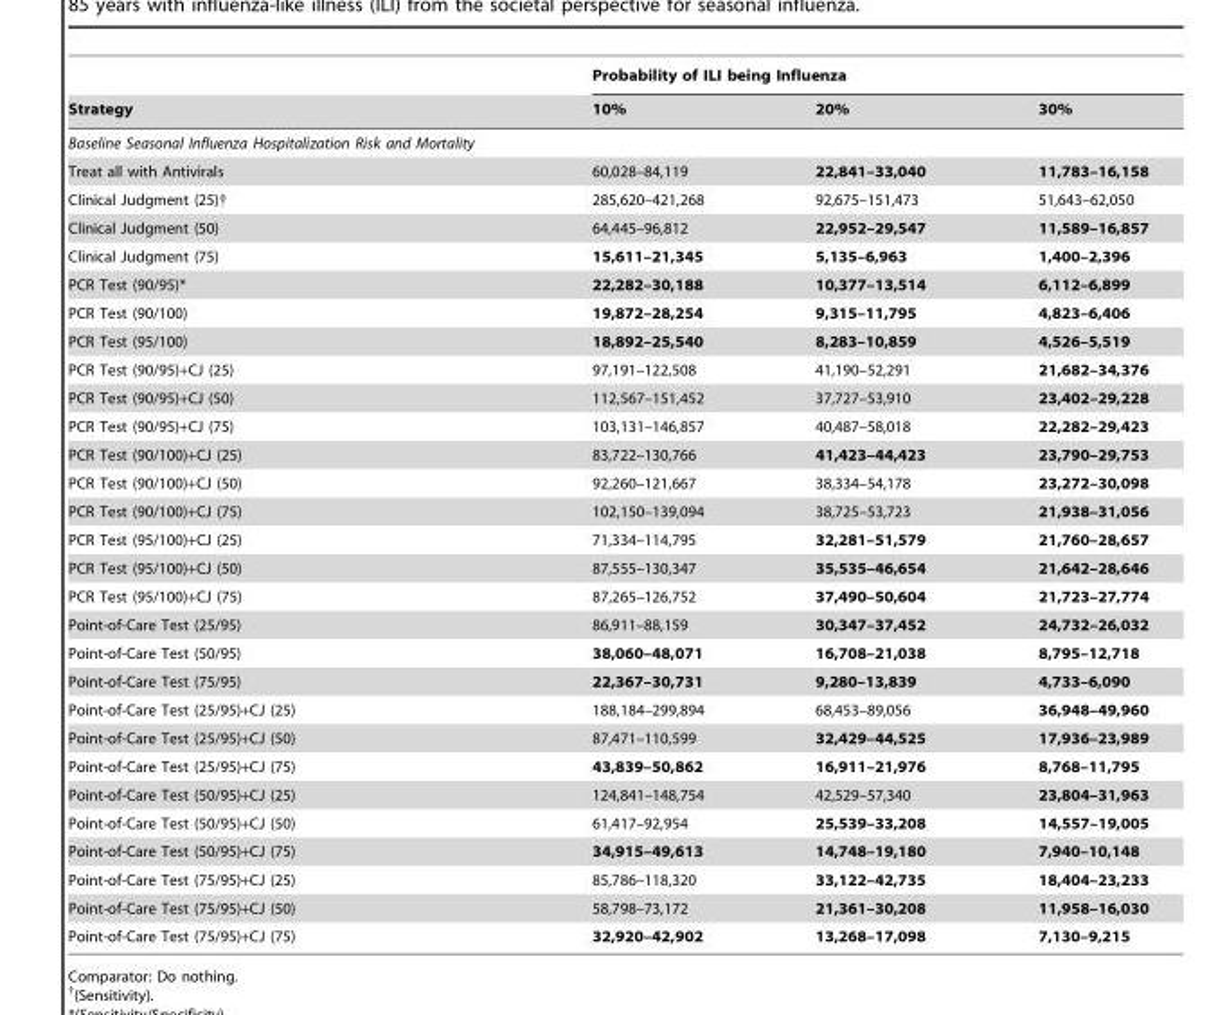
<table><thead><tr><td rowspan="2">Strategy</td><td colspan="3">Probability of ILI being Influenza</td></tr><tr><td>10%</td><td>20%</td><td>30%</td></tr></thead><tbody><tr><td colspan="4">Baseline Seasonal Influenza Hospitalization Risk and Mortality</td></tr><tr><td>Treat all with Antivirals</td><td>60,028–84,119</td><td>22,841–33,040</td><td>11,783–16,158</td></tr><tr><td>Clinical Judgment (25)†</td><td>285,620–421,268</td><td>92,675–151,473</td><td>51,643–62,050</td></tr><tr><td>Clinical Judgment (50)</td><td>64,445–96,812</td><td>22,952–29,547</td><td>11,589–16,857</td></tr><tr><td>Clinical Judgment (75)</td><td>15,611–21,345</td><td>5,135–6,963</td><td>1,400–2,396</td></tr><tr><td>PCR Test (90/95)*</td><td>22,282–30,188</td><td>10,377–13,514</td><td>6,112–6,899</td></tr><tr><td>PCR Test (90/100)</td><td>19,872–28,254</td><td>9,315–11,795</td><td>4,823–6,406</td></tr><tr><td>PCR Test (95/100)</td><td>18,892–25,540</td><td>8,283–10,859</td><td>4,526–5,519</td></tr><tr><td>PCR Test (90/95)+CJ (25)</td><td>97,191–122,508</td><td>41,190–52,291</td><td>21,682–34,376</td></tr><tr><td>PCR Test (90/95)+CJ (50)</td><td>112,567–151,452</td><td>37,727–53,910</td><td>23,402–29,228</td></tr><tr><td>PCR Test (90/95)+CJ (75)</td><td>103,131–146,857</td><td>40,487–58,018</td><td>22,282–29,423</td></tr><tr><td>PCR Test (90/100)+CJ (25)</td><td>83,722–130,766</td><td>41,423–44,423</td><td>23,790–29,753</td></tr><tr><td>PCR Test (90/100)+CJ (50)</td><td>92,260–121,667</td><td>38,334–54,178</td><td>23,272–30,098</td></tr><tr><td>PCR Test (90/100)+CJ (75)</td><td>102,150–139,094</td><td>38,725–53,723</td><td>21,938–31,056</td></tr><tr><td>PCR Test (95/100)+CJ (25)</td><td>71,334–114,795</td><td>32,281–51,579</td><td>21,760–28,657</td></tr><tr><td>PCR Test (95/100)+CJ (50)</td><td>87,555–130,347</td><td>35,535–46,654</td><td>21,642–28,646</td></tr><tr><td>PCR Test (95/100)+CJ (75)</td><td>87,265–126,752</td><td>37,490–50,604</td><td>21,723–27,774</td></tr><tr><td>Point-of-Care Test (25/95)</td><td>86,911–88,159</td><td>30,347–37,452</td><td>24,732–26,032</td></tr><tr><td>Point-of-Care Test (50/95)</td><td>38,060–48,071</td><td>16,708–21,038</td><td>8,795–12,718</td></tr><tr><td>Point-of-Care Test (75/95)</td><td>22,367–30,731</td><td>9,280–13,839</td><td>4,733–6,090</td></tr><tr><td>Point-of-Care Test (25/95)+CJ (25)</td><td>188,184–299,894</td><td>68,453–89,056</td><td>36,948–49,960</td></tr><tr><td>Point-of-Care Test (25/95)+CJ (50)</td><td>87,471–110,599</td><td>32,429–44,525</td><td>17,936–23,989</td></tr><tr><td>Point-of-Care Test (25/95)+CJ (75)</td><td>43,839–50,862</td><td>16,911–21,976</td><td>8,768–11,795</td></tr><tr><td>Point-of-Care Test (50/95)+CJ (25)</td><td>124,841–148,754</td><td>42,529–57,340</td><td>23,804–31,963</td></tr><tr><td>Point-of-Care Test (50/95)+CJ (50)</td><td>61,417–92,954</td><td>25,539–33,208</td><td>14,557–19,005</td></tr><tr><td>Point-of-Care Test (50/95)+CJ (75)</td><td>34,915–49,613</td><td>14,748–19,180</td><td>7,940–10,148</td></tr><tr><td>Point-of-Care Test (75/95)+CJ (25)</td><td>85,786–118,320</td><td>33,122–42,735</td><td>18,404–23,233</td></tr><tr><td>Point-of-Care Test (75/95)+CJ (50)</td><td>58,798–73,172</td><td>21,361–30,208</td><td>11,958–16,030</td></tr><tr><td>Point-of-Care Test (75/95)+CJ (75)</td><td>32,920–42,902</td><td>13,268–17,098</td><td>7,130–9,215</td></tr></tbody></table>